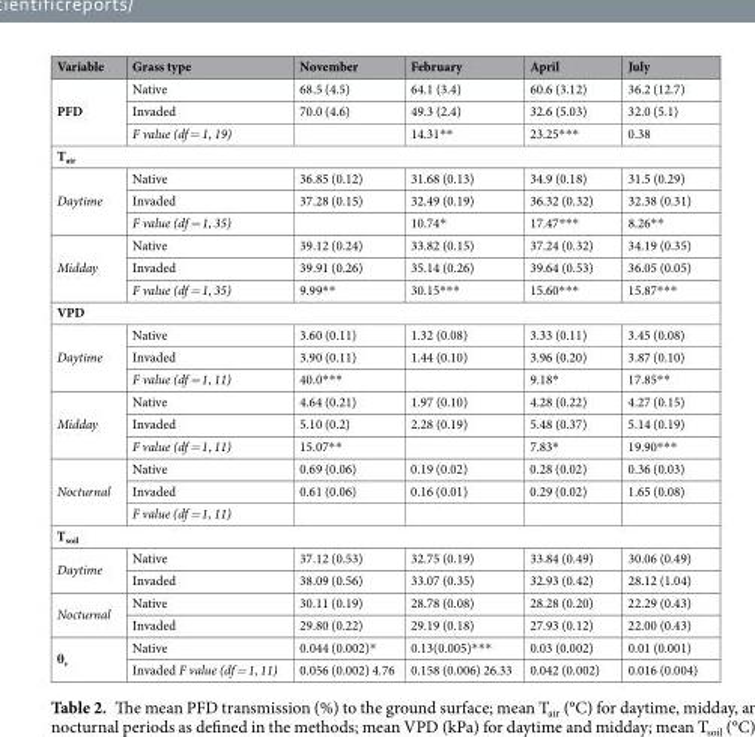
<table><thead><tr><td>Variable</td><td>Grass type</td><td>November</td><td>February</td><td>April</td><td>July</td></tr></thead><tbody><tr><td rowspan="3">PFD</td><td>Native</td><td>68.5 (4.5)</td><td>64.1 (3.4)</td><td>60.6 (3.12)</td><td>36.2 (12.7)</td></tr><tr><td>Invaded</td><td>70.0 (4.6)</td><td>49.3 (2.4)</td><td>32.6 (5.03)</td><td>32.0 (5.1)</td></tr><tr><td>F value (df = 1, 19)</td><td></td><td>14.31**</td><td>23.25***</td><td>0.38</td></tr><tr><td colspan="6">T<sub>air</sub></td></tr><tr><td rowspan="3">Daytime</td><td>Native</td><td>36.85 (0.12)</td><td>31.68 (0.13)</td><td>34.9 (0.18)</td><td>31.5 (0.29)</td></tr><tr><td>Invaded</td><td>37.28 (0.15)</td><td>32.49 (0.19)</td><td>36.32 (0.32)</td><td>32.38 (0.31)</td></tr><tr><td>F value (df = 1, 35)</td><td></td><td>10.74*</td><td>17.47***</td><td>8.26**</td></tr><tr><td rowspan="3">Midday</td><td>Native</td><td>39.12 (0.24)</td><td>33.82 (0.15)</td><td>37.24 (0.32)</td><td>34.19 (0.35)</td></tr><tr><td>Invaded</td><td>39.91 (0.26)</td><td>35.14 (0.26)</td><td>39.64 (0.53)</td><td>36.05 (0.05)</td></tr><tr><td>F value (df = 1, 35)</td><td>9.99**</td><td>30.15***</td><td>15.60***</td><td>15.87***</td></tr><tr><td colspan="6">VPD</td></tr><tr><td rowspan="3">Daytime</td><td>Native</td><td>3.60 (0.11)</td><td>1.32 (0.08)</td><td>3.33 (0.11)</td><td>3.45 (0.08)</td></tr><tr><td>Invaded</td><td>3.90 (0.11)</td><td>1.44 (0.10)</td><td>3.96 (0.20)</td><td>3.87 (0.10)</td></tr><tr><td>F value (df = 1, 11)</td><td>40.0***</td><td></td><td>9.18*</td><td>17.85**</td></tr><tr><td rowspan="3">Midday</td><td>Native</td><td>4.64 (0.21)</td><td>1.97 (0.10)</td><td>4.28 (0.22)</td><td>4.27 (0.15)</td></tr><tr><td>Invaded</td><td>5.10 (0.2)</td><td>2.28 (0.19)</td><td>5.48 (0.37)</td><td>5.14 (0.19)</td></tr><tr><td>F value (df = 1, 11)</td><td>15.07**</td><td></td><td>7.83*</td><td>19.90***</td></tr><tr><td rowspan="3">Nocturnal</td><td>Native</td><td>0.69 (0.06)</td><td>0.19 (0.02)</td><td>0.28 (0.02)</td><td>0.36 (0.03)</td></tr><tr><td>Invaded</td><td>0.61 (0.06)</td><td>0.16 (0.01)</td><td>0.29 (0.02)</td><td>1.65 (0.08)</td></tr><tr><td>F value (df = 1, 11)</td><td></td><td></td><td></td><td></td></tr><tr><td colspan="6">T<sub>soil</sub></td></tr><tr><td rowspan="2">Daytime</td><td>Native</td><td>37.12 (0.53)</td><td>32.75 (0.19)</td><td>33.84 (0.49)</td><td>30.06 (0.49)</td></tr><tr><td>Invaded</td><td>38.09 (0.56)</td><td>33.07 (0.35)</td><td>32.93 (0.42)</td><td>28.12 (1.04)</td></tr><tr><td rowspan="2">Nocturnal</td><td>Native</td><td>30.11 (0.19)</td><td>28.78 (0.08)</td><td>28.28 (0.20)</td><td>22.29 (0.43)</td></tr><tr><td>Invaded</td><td>29.80 (0.22)</td><td>29.19 (0.18)</td><td>27.93 (0.12)</td><td>22.00 (0.43)</td></tr><tr><td rowspan="2">θ<sub>v</sub></td><td>Native</td><td>0.044 (0.002)*</td><td>0.13(0.005)***</td><td>0.03 (0.002)</td><td>0.01 (0.001)</td></tr><tr><td>Invaded F value (df = 1, 11)</td><td>0.056 (0.002) 4.76</td><td>0.158 (0.006) 26.33</td><td>0.042 (0.002)</td><td>0.016 (0.004)</td></tr></tbody></table>